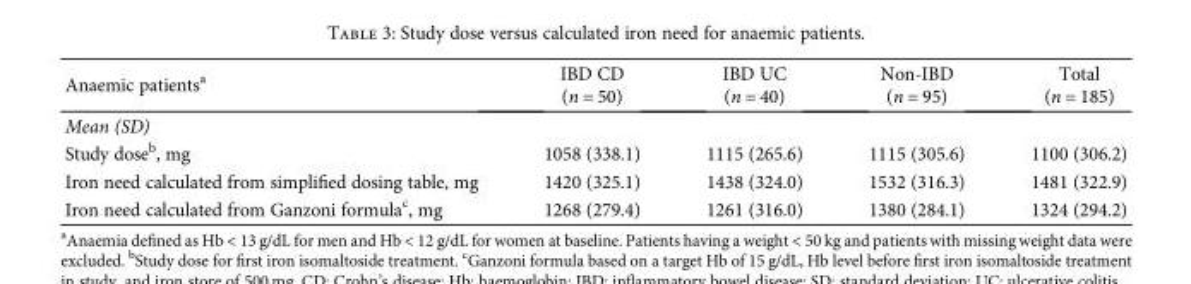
<table><thead><tr><td>Anaemic patients<sup>a</sup></td><td>IBD CD (n = 50)</td><td>IBD UC (n = 40)</td><td>Non-IBD (n = 95)</td><td>Total (n = 185)</td></tr></thead><tbody><tr><td colspan="5">Mean (SD)</td></tr><tr><td>Study dose<sup>b</sup>, mg</td><td>1058 (338.1)</td><td>1115 (265.6)</td><td>1115 (305.6)</td><td>1100 (306.2)</td></tr><tr><td>Iron need calculated from simplified dosing table, mg</td><td>1420 (325.1)</td><td>1438 (324.0)</td><td>1532 (316.3)</td><td>1481 (322.9)</td></tr><tr><td>Iron need calculated from Ganzoni formula<sup>c</sup>, mg</td><td>1268 (279.4)</td><td>1261 (316.0)</td><td>1380 (284.1)</td><td>1324 (294.2)</td></tr></tbody></table>